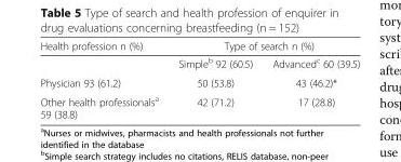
<table><thead><tr><td rowspan="2">Health profession n (%)</td><td colspan="2">Type of search n (%)</td></tr><tr><td>Simple<sup>b</sup> 92 (60.5)</td><td>Advanced<sup>c</sup> 60 (39.5)</td></tr></thead><tbody><tr><td>Physician 93 (61.2)</td><td>50 (53.8)</td><td>43 (46.2)*</td></tr><tr><td>Other health professionals<sup>a</sup> 59 (38.8)</td><td>42 (71.2)</td><td>17 (28.8)</td></tr></tbody></table>